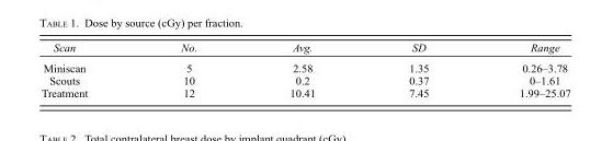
<table><thead><tr><td>Scan</td><td>No.</td><td>Avg.</td><td>SD</td><td>Range</td></tr></thead><tbody><tr><td>Miniscan</td><td>5</td><td>2.58</td><td>1.35</td><td>0.26–3.78</td></tr><tr><td>Scouts</td><td>10</td><td>0.2</td><td>0.37</td><td>0–1.61</td></tr><tr><td>Treatment</td><td>12</td><td>10.41</td><td>7.45</td><td>1.99–25.07</td></tr></tbody></table>